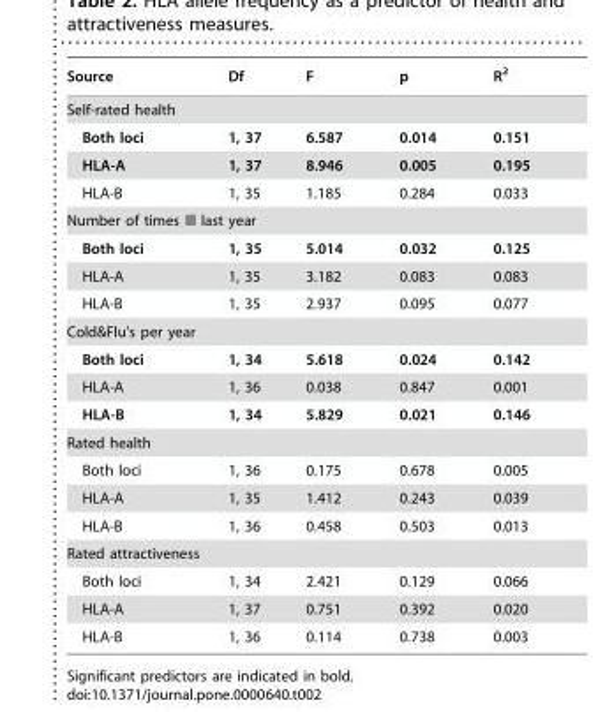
<table><thead><tr><td>Source</td><td>Df</td><td>F</td><td>p</td><td>R<sup>2</sup></td></tr></thead><tbody><tr><td colspan="5">Self-rated health</td></tr><tr><td>Both loci</td><td>1, 37</td><td>6.587</td><td>0.014</td><td>0.151</td></tr><tr><td>HLA-A</td><td>1, 37</td><td>8.946</td><td>0.005</td><td>0.195</td></tr><tr><td>HLA-B</td><td>1, 35</td><td>1.185</td><td>0.284</td><td>0.033</td></tr><tr><td colspan="5">Number of times Ill last year</td></tr><tr><td>Both loci</td><td>1, 35</td><td>5.014</td><td>0.032</td><td>0.125</td></tr><tr><td>HLA-A</td><td>1, 35</td><td>3.182</td><td>0.083</td><td>0.083</td></tr><tr><td>HLA-B</td><td>1, 35</td><td>2.937</td><td>0.095</td><td>0.077</td></tr><tr><td colspan="5">Cold&amp;Flu’s per year</td></tr><tr><td>Both loci</td><td>1, 34</td><td>5.618</td><td>0.024</td><td>0.142</td></tr><tr><td>HLA-A</td><td>1, 36</td><td>0.038</td><td>0.847</td><td>0.001</td></tr><tr><td>HLA-B</td><td>1, 34</td><td>5.829</td><td>0.021</td><td>0.146</td></tr><tr><td colspan="5">Rated health</td></tr><tr><td>Both loci</td><td>1, 36</td><td>0.175</td><td>0.678</td><td>0.005</td></tr><tr><td>HLA-A</td><td>1, 35</td><td>1.412</td><td>0.243</td><td>0.039</td></tr><tr><td>HLA-B</td><td>1, 36</td><td>0.458</td><td>0.503</td><td>0.013</td></tr><tr><td colspan="5">Rated attractiveness</td></tr><tr><td>Both loci</td><td>1, 34</td><td>2.421</td><td>0.129</td><td>0.066</td></tr><tr><td>HLA-A</td><td>1, 37</td><td>0.751</td><td>0.392</td><td>0.020</td></tr><tr><td>HLA-B</td><td>1, 36</td><td>0.114</td><td>0.738</td><td>0.003</td></tr></tbody></table>